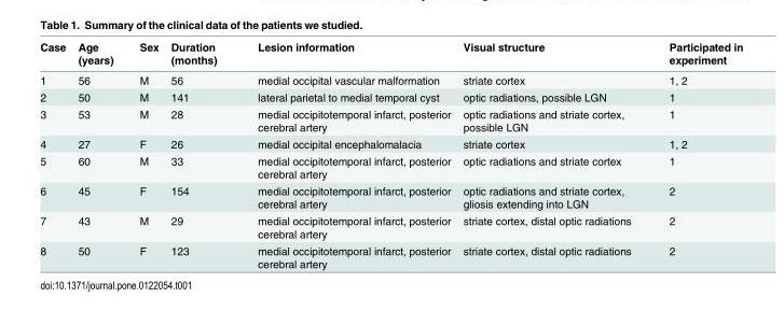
<table><thead><tr><td>Case</td><td>Age (years)</td><td>Sex</td><td>Duration (months)</td><td>Lesion information</td><td>Visual structure</td><td>Participated in experiment</td></tr></thead><tbody><tr><td>1</td><td>56</td><td>M</td><td>56</td><td>medial occipital vascular malformation</td><td>striate cortex</td><td>1, 2</td></tr><tr><td>2</td><td>50</td><td>M</td><td>141</td><td>lateral parietal to medial temporal cyst</td><td>optic radiations, possible LGN</td><td>1</td></tr><tr><td>3</td><td>53</td><td>M</td><td>28</td><td>medial occipitotemporal infarct, posterior cerebral artery</td><td>optic radiations and striate cortex, possible LGN</td><td>1</td></tr><tr><td>4</td><td>27</td><td>F</td><td>26</td><td>medial occipital encephalomalacia</td><td>striate cortex</td><td>1, 2</td></tr><tr><td>5</td><td>60</td><td>M</td><td>33</td><td>medial occipitotemporal infarct, posterior cerebral artery</td><td>optic radiations and striate cortex</td><td>1</td></tr><tr><td>6</td><td>45</td><td>F</td><td>154</td><td>medial occipitotemporal infarct, posterior cerebral artery</td><td>optic radiations and striate cortex, gliosis extending into LGN</td><td>2</td></tr><tr><td>7</td><td>43</td><td>M</td><td>29</td><td>medial occipitotemporal infarct, posterior cerebral artery</td><td>striate cortex, distal optic radiations</td><td>2</td></tr><tr><td>8</td><td>50</td><td>F</td><td>123</td><td>medial occipitotemporal infarct, posterior cerebral artery</td><td>striate cortex, distal optic radiations</td><td>2</td></tr></tbody></table>